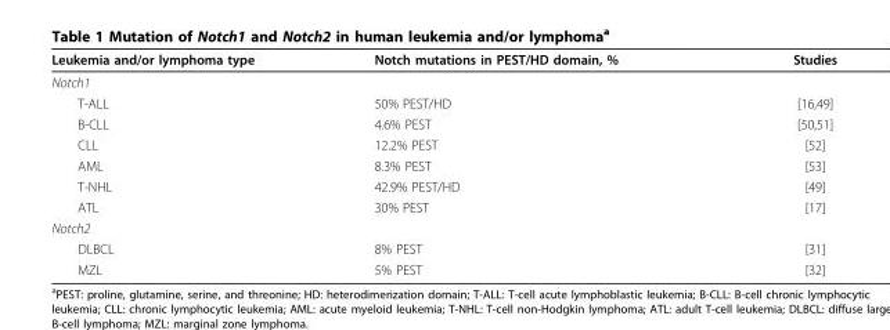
<table><thead><tr><td>Leukemia and/or lymphoma type</td><td>Notch mutations in PEST/HD domain, %</td><td>Studies</td></tr></thead><tbody><tr><td colspan="3">Notch1</td></tr><tr><td>T-ALL</td><td>50% PEST/HD</td><td>[16,49]</td></tr><tr><td>B-CLL</td><td>4.6% PEST</td><td>[50,51]</td></tr><tr><td>CLL</td><td>12.2% PEST</td><td>[52]</td></tr><tr><td>AML</td><td>8.3% PEST</td><td>[53]</td></tr><tr><td>T-NHL</td><td>42.9% PEST/HD</td><td>[49]</td></tr><tr><td>ATL</td><td>30% PEST</td><td>[17]</td></tr><tr><td colspan="3">Notch2</td></tr><tr><td>DLBCL</td><td>8% PEST</td><td>[31]</td></tr><tr><td>MZL</td><td>5% PEST</td><td>[32]</td></tr></tbody></table>